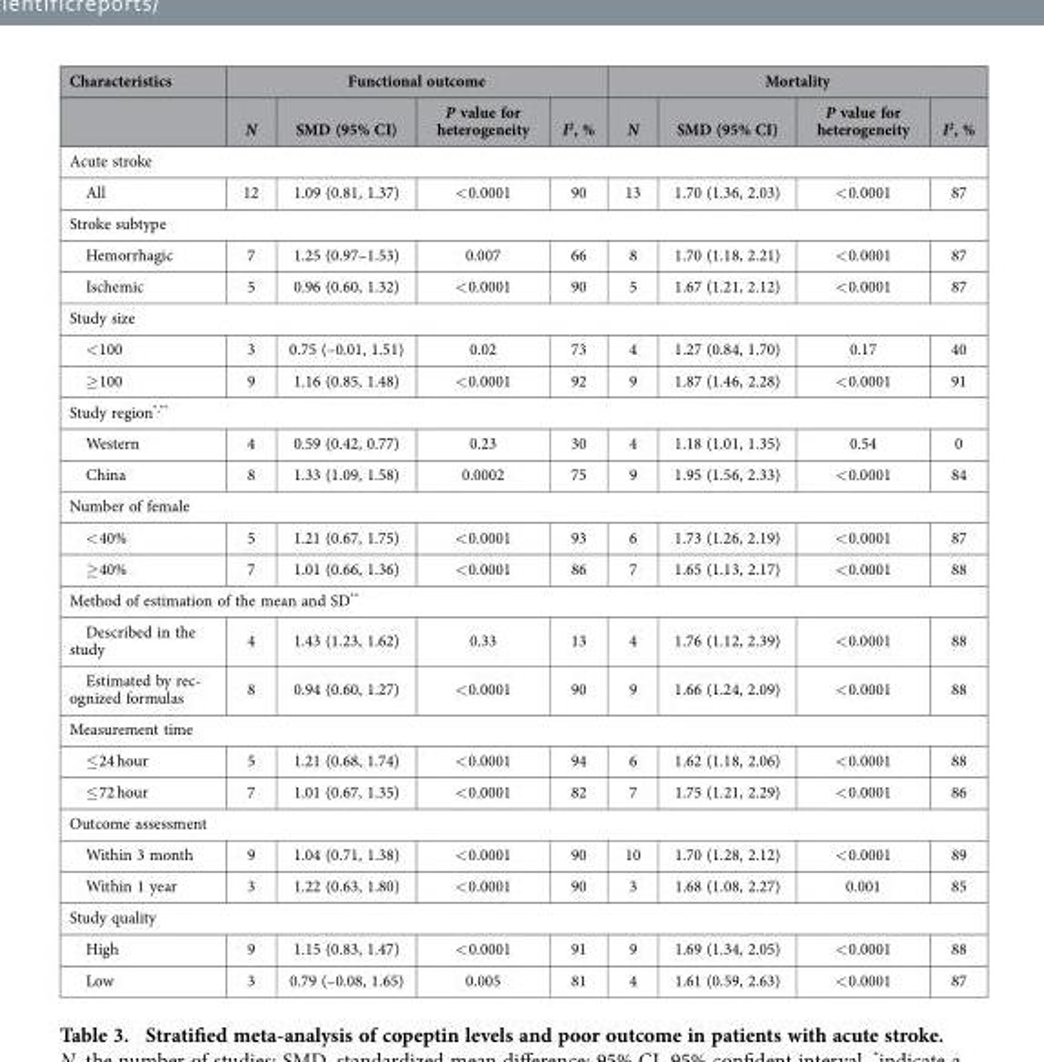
<table><thead><tr><td rowspan="2">Characteristics</td><td colspan="4">Functional outcome</td><td colspan="4">Mortality</td></tr><tr><td>N</td><td>SMD (95% CI)</td><td>P value for heterogeneity</td><td>I<sup>2</sup>, %</td><td>N</td><td>SMD (95% CI)</td><td>P value for heterogeneity</td><td>I<sup>2</sup>, %</td></tr></thead><tbody><tr><td colspan="9">Acute stroke</td></tr><tr><td>All</td><td>12</td><td>1.09 (0.81, 1.37)</td><td>&lt; 0.0001</td><td>90</td><td>13</td><td>1.70 (1.36, 2.03)</td><td>&lt; 0.0001</td><td>87</td></tr><tr><td colspan="9">Stroke subtype</td></tr><tr><td>Hemorrhagic</td><td>7</td><td>1.25 (0.97–1.53)</td><td>0.007</td><td>66</td><td>8</td><td>1.70 (1.18, 2.21)</td><td>&lt; 0.0001</td><td>87</td></tr><tr><td>Ischemic</td><td>5</td><td>0.96 (0.60, 1.32)</td><td>&lt; 0.0001</td><td>90</td><td>5</td><td>1.67 (1.21, 2.12)</td><td>&lt; 0.0001</td><td>87</td></tr><tr><td colspan="9">Study size</td></tr><tr><td>&lt; 100</td><td>3</td><td>0.75 (–0.01, 1.51)</td><td>0.02</td><td>73</td><td>4</td><td>1.27 (0.84, 1.70)</td><td>0.17</td><td>40</td></tr><tr><td>≥ 100</td><td>9</td><td>1.16 (0.85, 1.48)</td><td>&lt; 0.0001</td><td>92</td><td>9</td><td>1.87 (1.46, 2.28)</td><td>&lt; 0.0001</td><td>91</td></tr><tr><td colspan="9">Study region*,**</td></tr><tr><td>Western</td><td>4</td><td>0.59 (0.42, 0.77)</td><td>0.23</td><td>30</td><td>4</td><td>1.18 (1.01, 1.35)</td><td>0.54</td><td>0</td></tr><tr><td>China</td><td>8</td><td>1.33 (1.09, 1.58)</td><td>0.0002</td><td>75</td><td>9</td><td>1.95 (1.56, 2.33)</td><td>&lt; 0.0001</td><td>84</td></tr><tr><td colspan="9">Number of female</td></tr><tr><td>&lt; 40%</td><td>5</td><td>1.21 (0.67, 1.75)</td><td>&lt; 0.0001</td><td>93</td><td>6</td><td>1.73 (1.26, 2.19)</td><td>&lt; 0.0001</td><td>87</td></tr><tr><td>≥ 40%</td><td>7</td><td>1.01 (0.66, 1.36)</td><td>&lt; 0.0001</td><td>86</td><td>7</td><td>1.65 (1.13, 2.17)</td><td>&lt; 0.0001</td><td>88</td></tr><tr><td colspan="9">Method of estimation of the mean and SD**</td></tr><tr><td>Described in the study</td><td>4</td><td>1.43 (1.23, 1.62)</td><td>0.33</td><td>13</td><td>4</td><td>1.76 (1.12, 2.39)</td><td>&lt; 0.0001</td><td>88</td></tr><tr><td>Estimated by rec- ognized formulas</td><td>8</td><td>0.94 (0.60, 1.27)</td><td>&lt; 0.0001</td><td>90</td><td>9</td><td>1.66 (1.24, 2.09)</td><td>&lt; 0.0001</td><td>88</td></tr><tr><td colspan="9">Measurement time</td></tr><tr><td>≤ 24 hour</td><td>5</td><td>1.21 (0.68, 1.74)</td><td>&lt; 0.0001</td><td>94</td><td>6</td><td>1.62 (1.18, 2.06)</td><td>&lt; 0.0001</td><td>88</td></tr><tr><td>≤ 72 hour</td><td>7</td><td>1.01 (0.67, 1.35)</td><td>&lt; 0.0001</td><td>82</td><td>7</td><td>1.75 (1.21, 2.29)</td><td>&lt; 0.0001</td><td>86</td></tr><tr><td colspan="9">Outcome assessment</td></tr><tr><td>Within 3 month</td><td>9</td><td>1.04 (0.71, 1.38)</td><td>&lt; 0.0001</td><td>90</td><td>10</td><td>1.70 (1.28, 2.12)</td><td>&lt; 0.0001</td><td>89</td></tr><tr><td>Within 1 year</td><td>3</td><td>1.22 (0.63, 1.80)</td><td>&lt; 0.0001</td><td>90</td><td>3</td><td>1.68 (1.08, 2.27)</td><td>0.001</td><td>85</td></tr><tr><td colspan="9">Study quality</td></tr><tr><td>High</td><td>9</td><td>1.15 (0.83, 1.47)</td><td>&lt; 0.0001</td><td>91</td><td>9</td><td>1.69 (1.34, 2.05)</td><td>&lt; 0.0001</td><td>88</td></tr><tr><td>Low</td><td>3</td><td>0.79 (–0.08, 1.65)</td><td>0.005</td><td>81</td><td>4</td><td>1.61 (0.59, 2.63)</td><td>&lt; 0.0001</td><td>87</td></tr></tbody></table>